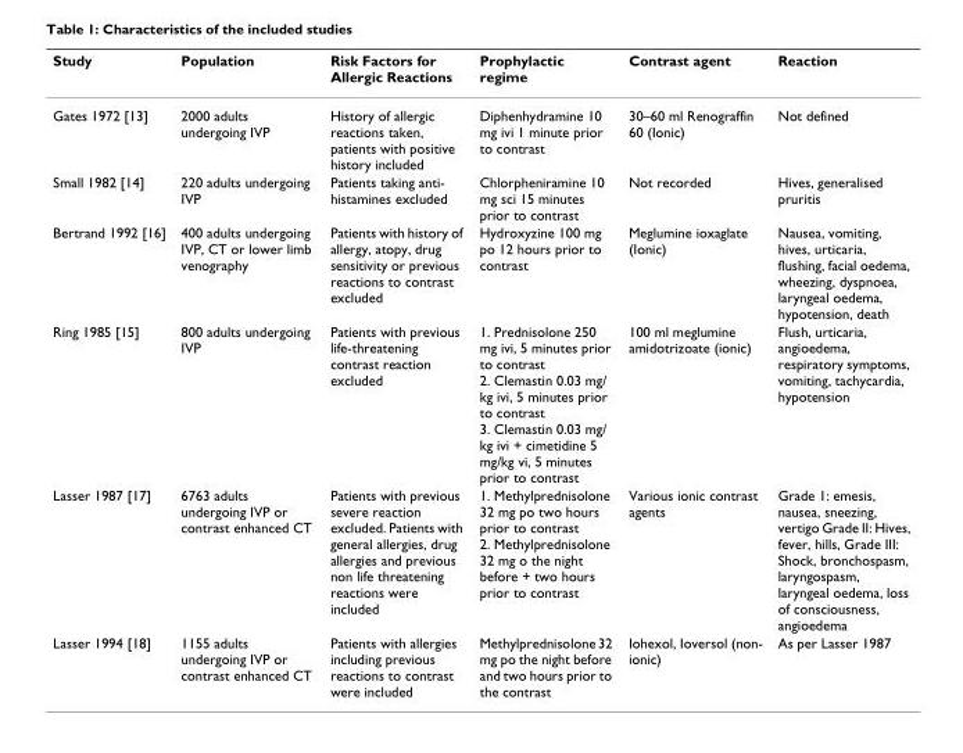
<table><thead><tr><td>Study</td><td>Population</td><td>Risk Factors for Allergic Reactions</td><td>Prophylactic regime</td><td>Contrast agent</td><td>Reaction</td></tr></thead><tbody><tr><td>Gates 1972 [13]</td><td>2000 adults undergoing IVP</td><td>History of allergic reactions taken, patients with positive history included</td><td>Diphenhydramine 10 mg ivi 1 minute prior to contrast</td><td>30–60 ml Renograffin 60 (Ionic)</td><td>Not defined</td></tr><tr><td>Small 1982 [14]</td><td>220 adults undergoing IVP</td><td>Patients taking anti- histamines excluded</td><td>Chlorpheniramine 10 mg sci 15 minutes prior to contrast</td><td>Not recorded</td><td>Hives, generalised pruritis</td></tr><tr><td>Bertrand 1992 [16]</td><td>400 adults undergoing IVP, CT or lower limb venography</td><td>Patients with history of allergy, atopy, drug sensitivity or previous reactions to contrast excluded</td><td>Hydroxyzine 100 mg po 12 hours prior to contrast</td><td>Meglumine ioxaglate (Ionic)</td><td>Nausea, vomiting, hives, urticaria, flushing, facial oedema, wheezing, dyspnoea, laryngeal oedema, hypotension, death</td></tr><tr><td>Ring 1985 [15]</td><td>800 adults undergoing IVP</td><td>Patients with previous life-threatening contrast reaction excluded</td><td>1. Prednisolone 250 mg ivi, 5 minutes prior to contrast 2. Clemastin 0.03 mg/ kg ivi, 5 minutes prior to contrast 3. Clemastin 0.03 mg/ kg ivi + cimetidine 5 mg/kg vi, 5 minutes prior to contrast</td><td>100 ml meglumine amidotrizoate (ionic)</td><td>Flush, urticaria, angioedema, respiratory symptoms, vomiting, tachycardia, hypotension</td></tr><tr><td>Lasser 1987 [17]</td><td>6763 adults undergoing IVP or contrast enhanced CT</td><td>Patients with previous severe reaction excluded. Patients with general allergies, drug allergies and previous non life threatening reactions were included</td><td>1. Methylprednisolone 32 mg po two hours prior to contrast 2. Methylprednisolone 32 mg o the night before + two hours prior to contrast</td><td>Various ionic contrast agents</td><td>Grade 1: emesis, nausea, sneezing, vertigo Grade II: Hives, fever, hills, Grade III: Shock, bronchospasm, laryngospasm, laryngeal oedema, loss of consciousness, angioedema</td></tr><tr><td>Lasser 1994 [18]</td><td>1155 adults undergoing IVP or contrast enhanced CT</td><td>Patients with allergies including previous reactions to contrast were included</td><td>Methylprednisolone 32 mg po the night before and two hours prior to the contrast</td><td>Iohexol, Ioversol (non- ionic)</td><td>As per Lasser 1987</td></tr></tbody></table>